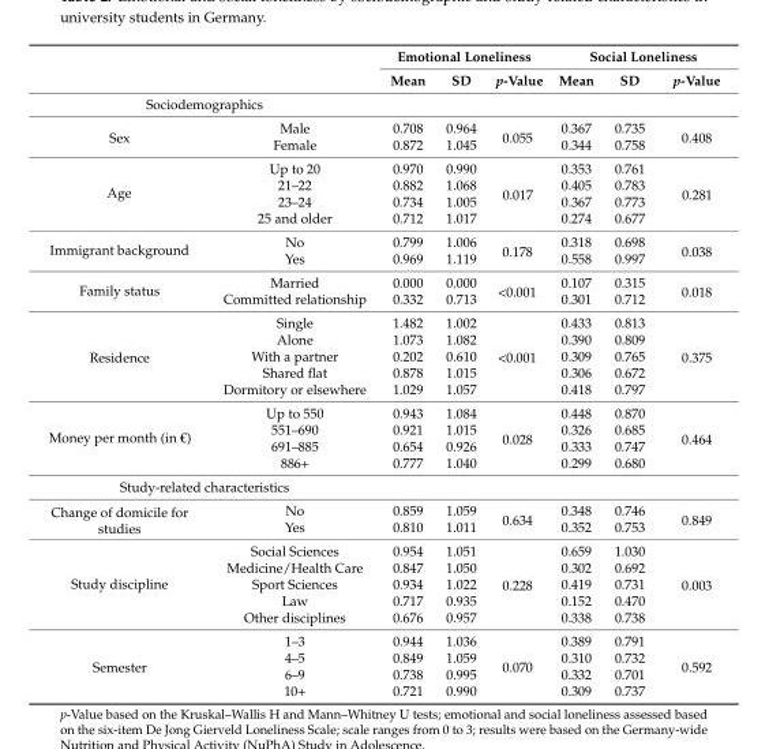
<table><thead><tr><td rowspan="2"></td><td rowspan="2"></td><td colspan="3">Emotional Loneliness</td><td colspan="3">Social Loneliness</td></tr><tr><td>Mean</td><td>SD</td><td>p-Value</td><td>Mean</td><td>SD</td><td>p-Value</td></tr></thead><tbody><tr><td colspan="8">Sociodemographics</td></tr><tr><td rowspan="2">Sex</td><td>Male</td><td>0.708</td><td>0.964</td><td rowspan="2">0.055</td><td>0.367</td><td>0.735</td><td rowspan="2">0.408</td></tr><tr><td>Female</td><td>0.872</td><td>1.045</td><td>0.344</td><td>0.758</td></tr><tr><td rowspan="4">Age</td><td>Up to 20</td><td>0.970</td><td>0.990</td><td rowspan="4">0.017</td><td>0.353</td><td>0.761</td><td rowspan="4">0.281</td></tr><tr><td>21–22</td><td>0.882</td><td>1.068</td><td>0.405</td><td>0.783</td></tr><tr><td>23–24</td><td>0.734</td><td>1.005</td><td>0.367</td><td>0.773</td></tr><tr><td>25 and older</td><td>0.712</td><td>1.017</td><td>0.274</td><td>0.677</td></tr><tr><td rowspan="2">Immigrant background</td><td>No</td><td>0.799</td><td>1.006</td><td rowspan="2">0.178</td><td>0.318</td><td>0.698</td><td rowspan="2">0.038</td></tr><tr><td>Yes</td><td>0.969</td><td>1.119</td><td>0.558</td><td>0.997</td></tr><tr><td rowspan="2">Family status</td><td>Married</td><td>0.000</td><td>0.000</td><td rowspan="2">&lt;0.001</td><td>0.107</td><td>0.315</td><td rowspan="2">0.018</td></tr><tr><td>Committed relationship</td><td>0.332</td><td>0.713</td><td>0.301</td><td>0.712</td></tr><tr><td rowspan="5">Residence</td><td>Single</td><td>1.482</td><td>1.002</td><td rowspan="5">&lt;0.001</td><td>0.433</td><td>0.813</td><td rowspan="5">0.375</td></tr><tr><td>Alone</td><td>1.073</td><td>1.082</td><td>0.390</td><td>0.809</td></tr><tr><td>With a partner</td><td>0.202</td><td>0.610</td><td>0.309</td><td>0.765</td></tr><tr><td>Shared flat</td><td>0.878</td><td>1.015</td><td>0.306</td><td>0.672</td></tr><tr><td>Dormitory or elsewhere</td><td>1.029</td><td>1.057</td><td>0.418</td><td>0.797</td></tr><tr><td rowspan="4">Money per month (in €)</td><td>Up to 550</td><td>0.943</td><td>1.084</td><td rowspan="4">0.028</td><td>0.448</td><td>0.870</td><td rowspan="4">0.464</td></tr><tr><td>551–690</td><td>0.921</td><td>1.015</td><td>0.326</td><td>0.685</td></tr><tr><td>691–885</td><td>0.654</td><td>0.926</td><td>0.333</td><td>0.747</td></tr><tr><td>886+</td><td>0.777</td><td>1.040</td><td>0.299</td><td>0.680</td></tr><tr><td colspan="8">Study-related characteristics</td></tr><tr><td rowspan="2">Change of domicile for studies</td><td>No</td><td>0.859</td><td>1.059</td><td rowspan="2">0.634</td><td>0.348</td><td>0.746</td><td rowspan="2">0.849</td></tr><tr><td>Yes</td><td>0.810</td><td>1.011</td><td>0.352</td><td>0.753</td></tr><tr><td rowspan="5">Study discipline</td><td>Social Sciences</td><td>0.954</td><td>1.051</td><td rowspan="5">0.228</td><td>0.659</td><td>1.030</td><td rowspan="5">0.003</td></tr><tr><td>Medicine/Health Care</td><td>0.847</td><td>1.050</td><td>0.302</td><td>0.692</td></tr><tr><td>Sport Sciences</td><td>0.934</td><td>1.022</td><td>0.419</td><td>0.731</td></tr><tr><td>Law</td><td>0.717</td><td>0.935</td><td>0.152</td><td>0.470</td></tr><tr><td>Other disciplines</td><td>0.676</td><td>0.957</td><td>0.338</td><td>0.738</td></tr><tr><td rowspan="4">Semester</td><td>1–3</td><td>0.944</td><td>1.036</td><td rowspan="4">0.070</td><td>0.389</td><td>0.791</td><td rowspan="4">0.592</td></tr><tr><td>4–5</td><td>0.849</td><td>1.059</td><td>0.310</td><td>0.732</td></tr><tr><td>6–9</td><td>0.738</td><td>0.995</td><td>0.332</td><td>0.701</td></tr><tr><td>10+</td><td>0.721</td><td>0.990</td><td>0.309</td><td>0.737</td></tr></tbody></table>